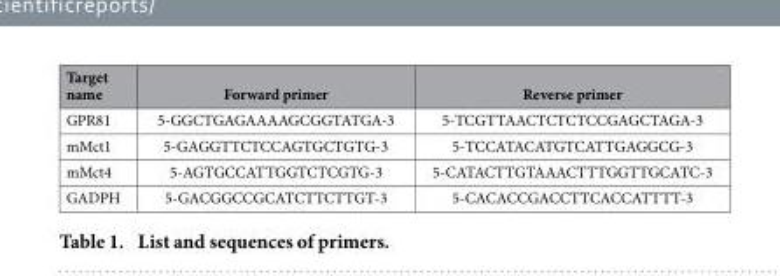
<table><thead><tr><td>Target name</td><td>Forward primer</td><td>Reverse primer</td></tr></thead><tbody><tr><td>GPR81</td><td>5-GGCTGAGAAAAGCGGTATGA-3</td><td>5-TCGTTAACTCTCTCCGAGCTAGA-3</td></tr><tr><td>mMct1</td><td>5-GAGGTTCTCCAGTGCTGTG-3</td><td>5-TCCATACATGTCATTGAGGCG-3</td></tr><tr><td>mMct4</td><td>5-AGTGCCATTGGTCTCGTG-3</td><td>5-CATACTTGTAAACTTTGGTTGCATC-3</td></tr><tr><td>GADPH</td><td>5-GACGGCCGCATCTTCTTGT-3</td><td>5-CACACCGACCTTCACCATTTT-3</td></tr></tbody></table>